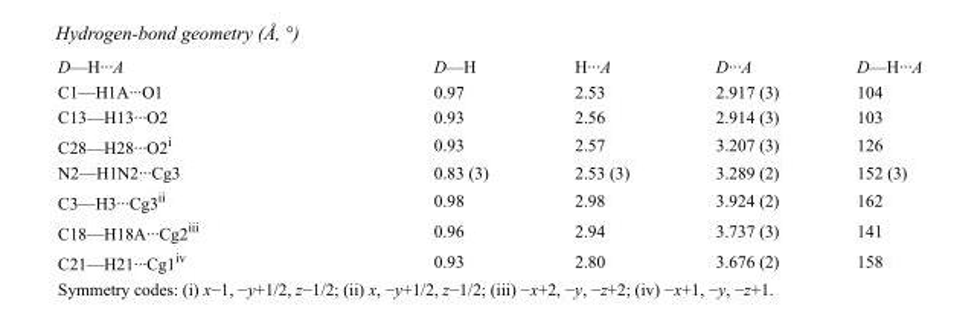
<table><tbody><tr><td>D—H···A</td><td>D—H</td><td>H···A</td><td>D···A</td><td>D—H···A</td></tr><tr><td>C1—H1A···O1</td><td>0.97</td><td>2.53</td><td>2.917 (3)</td><td>104</td></tr><tr><td>C13—H13···O2</td><td>0.93</td><td>2.56</td><td>2.914 (3)</td><td>103</td></tr><tr><td>C28—H28···O2<sup>i</sup></td><td>0.93</td><td>2.57</td><td>3.207 (3)</td><td>126</td></tr><tr><td>N2—H1N2···Cg3</td><td>0.83 (3)</td><td>2.53 (3)</td><td>3.289 (2)</td><td>152 (3)</td></tr><tr><td>C3—H3···Cg3<sup>ii</sup></td><td>0.98</td><td>2.98</td><td>3.924 (2)</td><td>162</td></tr><tr><td>C18—H18A···Cg2<sup>iii</sup></td><td>0.96</td><td>2.94</td><td>3.737 (3)</td><td>141</td></tr><tr><td>C21—H21···Cg1<sup>iv</sup></td><td>0.93</td><td>2.80</td><td>3.676 (2)</td><td>158</td></tr></tbody></table>